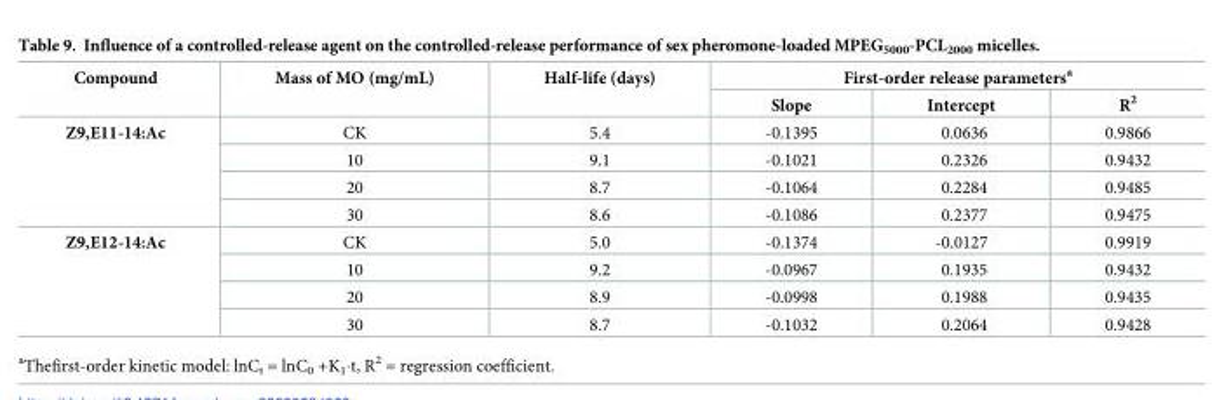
<table><thead><tr><td rowspan="2">Compound</td><td rowspan="2">Mass of MO (mg/mL)</td><td rowspan="2">Half-life (days)</td><td colspan="3">First-order release parameters<sup>a</sup></td></tr><tr><td>Slope</td><td>Intercept</td><td>R<sup>2</sup></td></tr></thead><tbody><tr><td rowspan="4">Z9,E11-14:Ac</td><td>CK</td><td>5.4</td><td>-0.1395</td><td>0.0636</td><td>0.9866</td></tr><tr><td>10</td><td>9.1</td><td>-0.1021</td><td>0.2326</td><td>0.9432</td></tr><tr><td>20</td><td>8.7</td><td>-0.1064</td><td>0.2284</td><td>0.9485</td></tr><tr><td>30</td><td>8.6</td><td>-0.1086</td><td>0.2377</td><td>0.9475</td></tr><tr><td rowspan="4">Z9,E12-14:Ac</td><td>CK</td><td>5.0</td><td>-0.1374</td><td>-0.0127</td><td>0.9919</td></tr><tr><td>10</td><td>9.2</td><td>-0.0967</td><td>0.1935</td><td>0.9432</td></tr><tr><td>20</td><td>8.9</td><td>-0.0998</td><td>0.1988</td><td>0.9435</td></tr><tr><td>30</td><td>8.7</td><td>-0.1032</td><td>0.2064</td><td>0.9428</td></tr></tbody></table>